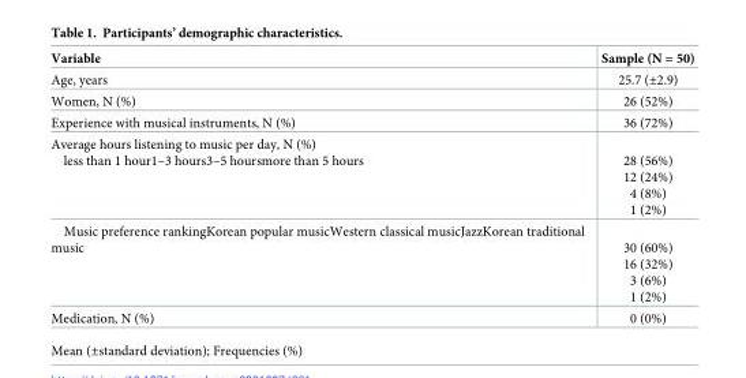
<table><thead><tr><td>Variable</td><td>Sample (N = 50)</td></tr></thead><tbody><tr><td>Age, years</td><td>25.7 (±2.9)</td></tr><tr><td>Women, N (%)</td><td>26 (52%)</td></tr><tr><td>Experience with musical instruments, N (%)</td><td>36 (72%)</td></tr><tr><td>Average hours listening to music per day, N (%) less than 1 hour1–3 hours3–5 hoursmore than 5 hours</td><td>28 (56%) 12 (24%) 4 (8%) 1 (2%)</td></tr><tr><td>Music preference rankingKorean popular musicWestern classical musicJazzKorean traditional music</td><td>30 (60%) 16 (32%) 3 (6%) 1 (2%)</td></tr><tr><td>Medication, N (%)</td><td>0 (0%)</td></tr></tbody></table>